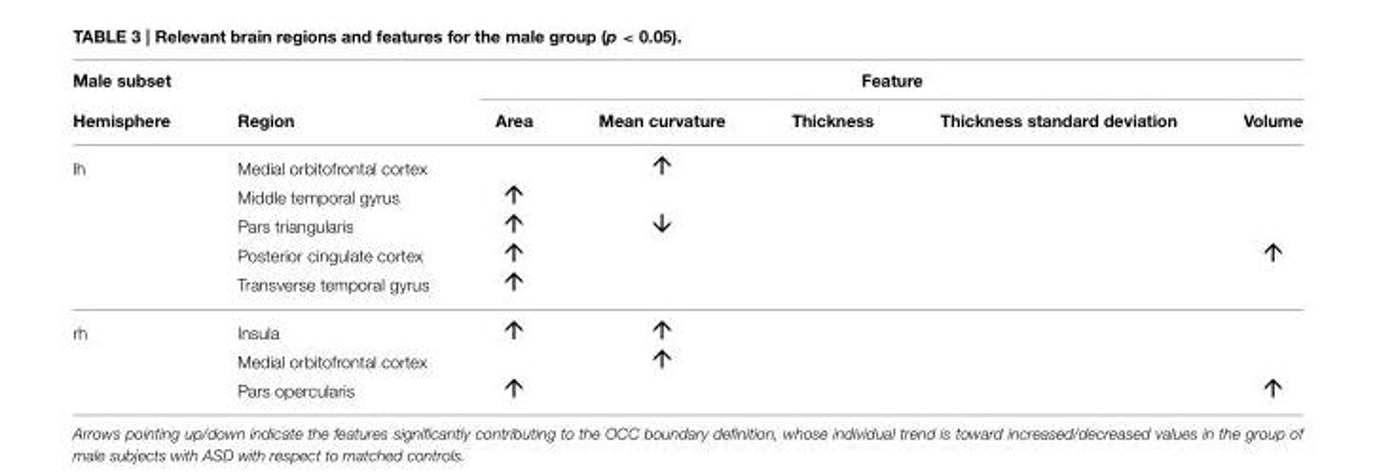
<table><thead><tr><td rowspan="2">Male subset Hemisphere</td><td rowspan="2">Region</td><td colspan="5">Feature</td></tr><tr><td>Area</td><td>Mean curvature</td><td>Thickness</td><td>Thickness standard deviation</td><td>Volume</td></tr></thead><tbody><tr><td rowspan="5">lh</td><td>Medial orbitofrontal cortex</td><td></td><td></td><td></td><td></td><td></td></tr><tr><td>Middle temporal gyrus</td><td></td><td></td><td></td><td></td><td></td></tr><tr><td>Pars triangularis</td><td></td><td></td><td></td><td></td><td></td></tr><tr><td>Posterior cingulate cortex</td><td></td><td></td><td></td><td></td><td></td></tr><tr><td>Transverse temporal gyrus</td><td></td><td></td><td></td><td></td><td></td></tr><tr><td rowspan="3">rh</td><td>Insula</td><td></td><td></td><td></td><td></td><td></td></tr><tr><td>Medial orbitofrontal cortex</td><td></td><td></td><td></td><td></td><td></td></tr><tr><td>Pars opercularis</td><td></td><td></td><td></td><td></td><td></td></tr></tbody></table>